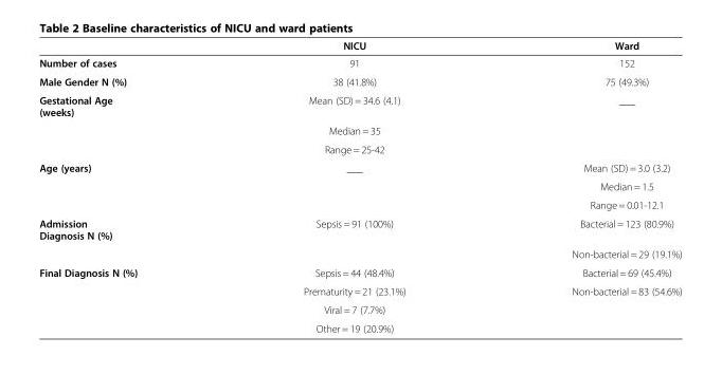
<table><thead><tr><td></td><td>NICU</td><td>Ward</td></tr></thead><tbody><tr><td>Number of cases</td><td>91</td><td>152</td></tr><tr><td>Male Gender N (%)</td><td>38 (41.8%)</td><td>75 (49.3%)</td></tr><tr><td rowspan="3">Gestational Age (weeks)</td><td>Mean (SD) = 34.6 (4.1)</td><td>___</td></tr><tr><td>Median = 35</td><td></td></tr><tr><td>Range = 25-42</td><td></td></tr><tr><td rowspan="3">Age (years)</td><td>___</td><td>Mean (SD) = 3.0 (3.2)</td></tr><tr><td></td><td>Median = 1.5</td></tr><tr><td></td><td>Range = 0.01-12.1</td></tr><tr><td rowspan="2">Admission Diagnosis N (%)</td><td>Sepsis = 91 (100%)</td><td>Bacterial = 123 (80.9%)</td></tr><tr><td></td><td>Non-bacterial = 29 (19.1%)</td></tr><tr><td rowspan="4">Final Diagnosis N (%)</td><td>Sepsis = 44 (48.4%)</td><td>Bacterial = 69 (45.4%)</td></tr><tr><td>Prematurity = 21 (23.1%)</td><td>Non-bacterial = 83 (54.6%)</td></tr><tr><td>Viral = 7 (7.7%)</td><td></td></tr><tr><td>Other = 19 (20.9%)</td><td></td></tr></tbody></table>